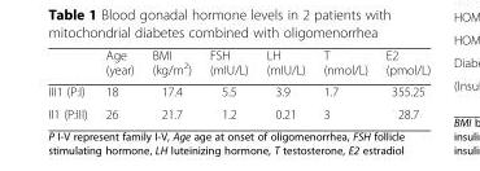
<table><thead><tr><td></td><td>Age (year)</td><td>BMI (kg/m<sup>2</sup>)</td><td>FSH (mIU/L)</td><td>LH (mIU/L)</td><td>T (nmol/L)</td><td>E2 (pmol/L)</td></tr></thead><tbody><tr><td>III1 (P:I)</td><td>18</td><td>17.4</td><td>5.5</td><td>3.9</td><td>1.7</td><td>355.25</td></tr><tr><td>II1 (P:III)</td><td>26</td><td>21.7</td><td>1.2</td><td>0.21</td><td>3</td><td>28.7</td></tr></tbody></table>